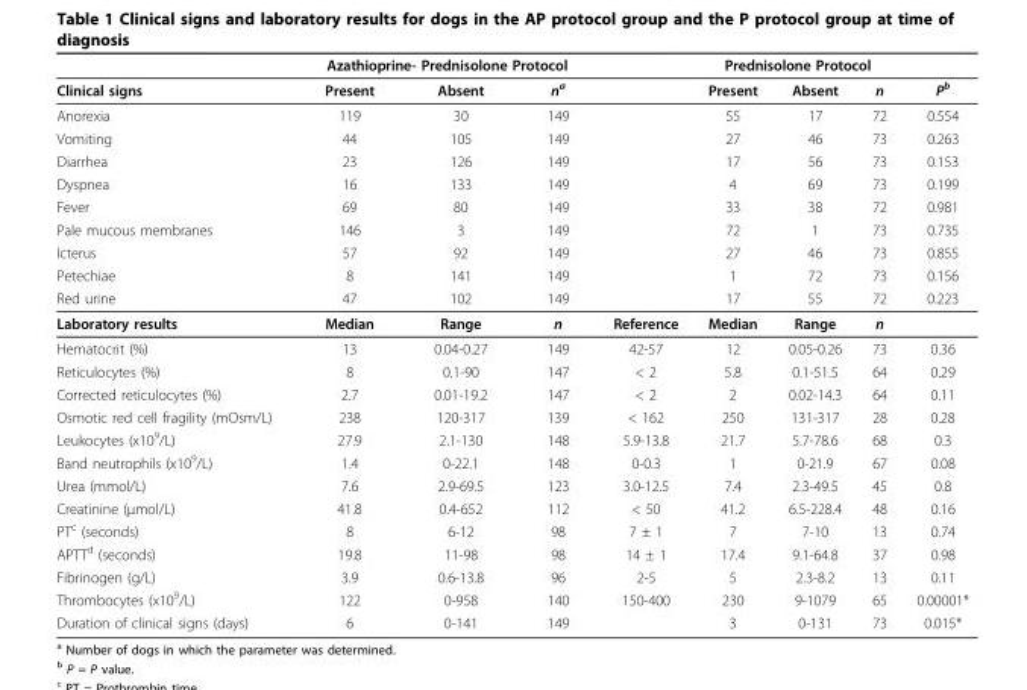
<table><thead><tr><td rowspan="2">Clinical signs</td><td colspan="3">Azathioprine- Prednisolone Protocol</td><td rowspan="2"></td><td colspan="3">Prednisolone Protocol</td><td rowspan="2">P<sup>b</sup></td></tr><tr><td>Present</td><td>Absent</td><td>na</td><td>Present</td><td>Absent</td><td>n</td></tr></thead><tbody><tr><td>Anorexia</td><td>119</td><td>30</td><td>149</td><td></td><td>55</td><td>17</td><td>72</td><td>0.554</td></tr><tr><td>Vomiting</td><td>44</td><td>105</td><td>149</td><td></td><td>27</td><td>46</td><td>73</td><td>0.263</td></tr><tr><td>Diarrhea</td><td>23</td><td>126</td><td>149</td><td></td><td>17</td><td>56</td><td>73</td><td>0.153</td></tr><tr><td>Dyspnea</td><td>16</td><td>133</td><td>149</td><td></td><td>4</td><td>69</td><td>73</td><td>0.199</td></tr><tr><td>Fever</td><td>69</td><td>80</td><td>149</td><td></td><td>33</td><td>38</td><td>72</td><td>0.981</td></tr><tr><td>Pale mucous membranes</td><td>146</td><td>3</td><td>149</td><td></td><td>72</td><td>1</td><td>73</td><td>0.735</td></tr><tr><td>Icterus</td><td>57</td><td>92</td><td>149</td><td></td><td>27</td><td>46</td><td>73</td><td>0.855</td></tr><tr><td>Petechiae</td><td>8</td><td>141</td><td>149</td><td></td><td>1</td><td>72</td><td>73</td><td>0.156</td></tr><tr><td>Red urine</td><td>47</td><td>102</td><td>149</td><td></td><td>17</td><td>55</td><td>72</td><td>0.223</td></tr><tr><td>Laboratory results</td><td>Median</td><td>Range</td><td>n</td><td>Reference</td><td>Median</td><td>Range</td><td>n</td><td></td></tr><tr><td>Hematocrit (%)</td><td>13</td><td>0.04-0.27</td><td>149</td><td>42-57</td><td>12</td><td>0.05-0.26</td><td>73</td><td>0.36</td></tr><tr><td>Reticulocytes (%)</td><td>8</td><td>0.1-90</td><td>147</td><td>&lt; 2</td><td>5.8</td><td>0.1-51.5</td><td>64</td><td>0.29</td></tr><tr><td>Corrected reticulocytes (%)</td><td>2.7</td><td>0.01-19.2</td><td>147</td><td>&lt; 2</td><td>2</td><td>0.02-14.3</td><td>64</td><td>0.11</td></tr><tr><td>Osmotic red cell fragility (mOsm/L)</td><td>238</td><td>120-317</td><td>139</td><td>&lt; 162</td><td>250</td><td>131-317</td><td>28</td><td>0.28</td></tr><tr><td>Leukocytes (x10<sup>9</sup>/L)</td><td>27.9</td><td>2.1-130</td><td>148</td><td>5.9-13.8</td><td>21.7</td><td>5.7-78.6</td><td>68</td><td>0.3</td></tr><tr><td>Band neutrophils (x10<sup>9</sup>/L)</td><td>1.4</td><td>0-22.1</td><td>148</td><td>0-0.3</td><td>1</td><td>0-21.9</td><td>67</td><td>0.08</td></tr><tr><td>Urea (mmol/L)</td><td>7.6</td><td>2.9-69.5</td><td>123</td><td>3.0-12.5</td><td>7.4</td><td>2.3-49.5</td><td>45</td><td>0.8</td></tr><tr><td>Creatinine (μmol/L)</td><td>41.8</td><td>0.4-652</td><td>112</td><td>&lt; 50</td><td>41.2</td><td>6.5-228.4</td><td>48</td><td>0.16</td></tr><tr><td>PT<sup>c</sup> (seconds)</td><td>8</td><td>6-12</td><td>98</td><td>7 ± 1</td><td>7</td><td>7-10</td><td>13</td><td>0.74</td></tr><tr><td>APTT<sup>d</sup> (seconds)</td><td>19.8</td><td>11-98</td><td>98</td><td>14 ± 1</td><td>17.4</td><td>9.1-64.8</td><td>37</td><td>0.98</td></tr><tr><td>Fibrinogen (g/L)</td><td>3.9</td><td>0.6-13.8</td><td>96</td><td>2-5</td><td>5</td><td>2.3-8.2</td><td>13</td><td>0.11</td></tr><tr><td>Thrombocytes (x10<sup>9</sup>/L)</td><td>122</td><td>0-958</td><td>140</td><td>150-400</td><td>230</td><td>9-1079</td><td>65</td><td>0.00001*</td></tr><tr><td>Duration of clinical signs (days)</td><td>6</td><td>0-141</td><td>149</td><td></td><td>3</td><td>0-131</td><td>73</td><td>0.015*</td></tr></tbody></table>